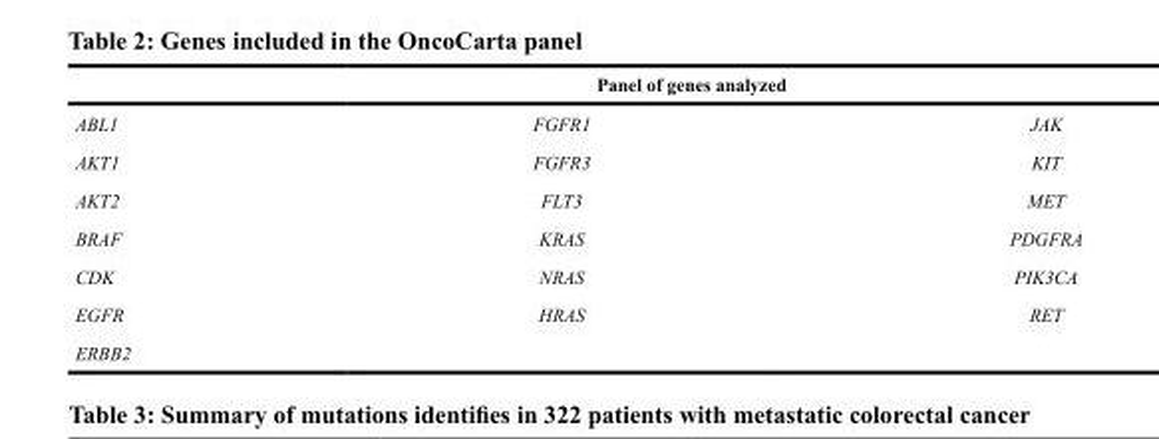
<table><thead><tr><td colspan="3">Panel of genes analyzed</td></tr><tr><td>ABL1</td><td>FGFR1</td><td>JAK</td></tr></thead><tbody><tr><td>AKT1</td><td>FGFR3</td><td>KIT</td></tr><tr><td>AKT2</td><td>FLT3</td><td>MET</td></tr><tr><td>BRAF</td><td>KRAS</td><td>PDGFRA</td></tr><tr><td>CDK</td><td>NRAS</td><td>PIK3CA</td></tr><tr><td>EGFR</td><td>HRAS</td><td>RET</td></tr><tr><td>ERBB2</td><td></td><td></td></tr></tbody></table>